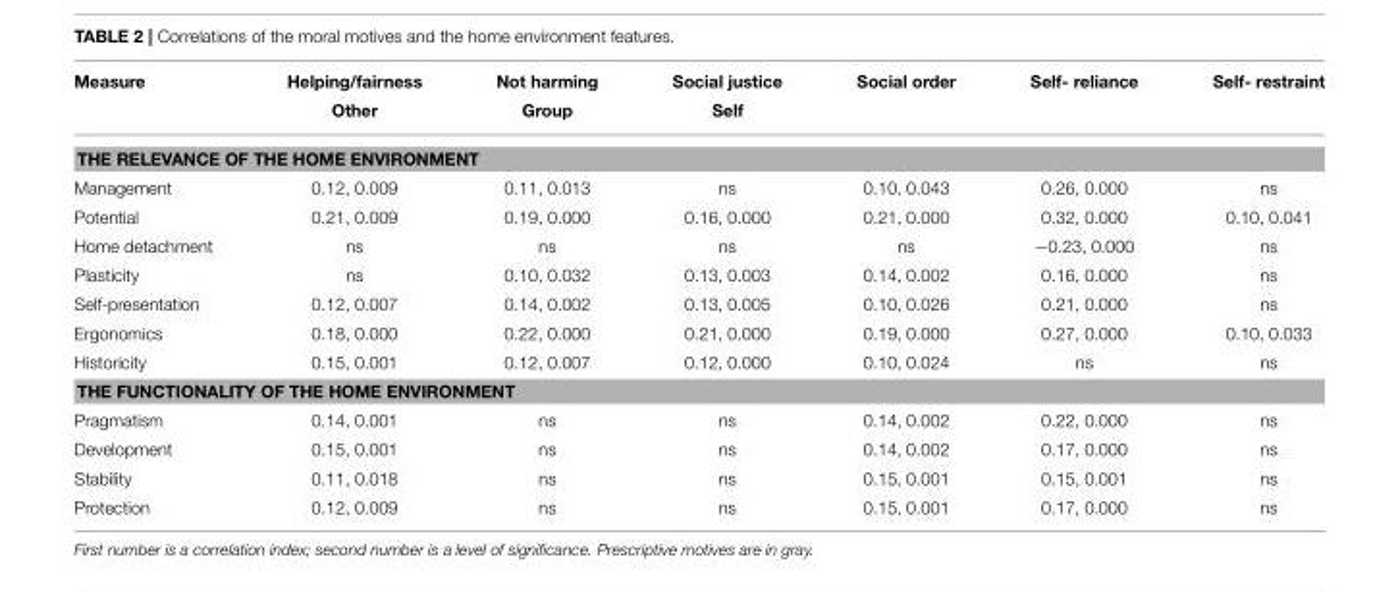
<table><thead><tr><td rowspan="2">Measure</td><td rowspan="2">Helping/fairness Other</td><td rowspan="2">Not harming Group</td><td rowspan="2">Social justice Self</td><td rowspan="2">Social order</td><td rowspan="2">Self- reliance</td><td rowspan="2">Self- restraint</td></tr><tr></tr></thead><tbody><tr><td colspan="7">THE RELEVANCE OF THE HOME ENVIRONMENT</td></tr><tr><td>Management</td><td>0.12, 0.009</td><td>0.11, 0.013</td><td>ns</td><td>0.10, 0.043</td><td>0.26, 0.000</td><td>ns</td></tr><tr><td>Potential</td><td>0.21, 0.009</td><td>0.19, 0.000</td><td>0.16, 0.000</td><td>0.21, 0.000</td><td>0.32, 0.000</td><td>0.10, 0.041</td></tr><tr><td>Home detachment</td><td>ns</td><td>ns</td><td>ns</td><td>ns</td><td>−0.23, 0.000</td><td>ns</td></tr><tr><td>Plasticity</td><td>ns</td><td>0.10, 0.032</td><td>0.13, 0.003</td><td>0.14, 0.002</td><td>0.16, 0.000</td><td>ns</td></tr><tr><td>Self-presentation</td><td>0.12, 0.007</td><td>0.14, 0.002</td><td>0.13, 0.005</td><td>0.10, 0.026</td><td>0.21, 0.000</td><td>ns</td></tr><tr><td>Ergonomics</td><td>0.18, 0.000</td><td>0.22, 0.000</td><td>0.21, 0.000</td><td>0.19, 0.000</td><td>0.27, 0.000</td><td>0.10, 0.033</td></tr><tr><td>Historicity</td><td>0.15, 0.001</td><td>0.12, 0.007</td><td>0.12, 0.000</td><td>0.10, 0.024</td><td>ns</td><td>ns</td></tr><tr><td colspan="7">THE FUNCTIONALITY OF THE HOME ENVIRONMENT</td></tr><tr><td>Pragmatism</td><td>0.14, 0.001</td><td>ns</td><td>ns</td><td>0.14, 0.002</td><td>0.22, 0.000</td><td>ns</td></tr><tr><td>Development</td><td>0.15, 0.001</td><td>ns</td><td>ns</td><td>0.14, 0.002</td><td>0.17, 0.000</td><td>ns</td></tr><tr><td>Stability</td><td>0.11, 0.018</td><td>ns</td><td>ns</td><td>0.15, 0.001</td><td>0.15, 0.001</td><td>ns</td></tr><tr><td>Protection</td><td>0.12, 0.009</td><td>ns</td><td>ns</td><td>0.15, 0.001</td><td>0.17, 0.000</td><td>ns</td></tr></tbody></table>